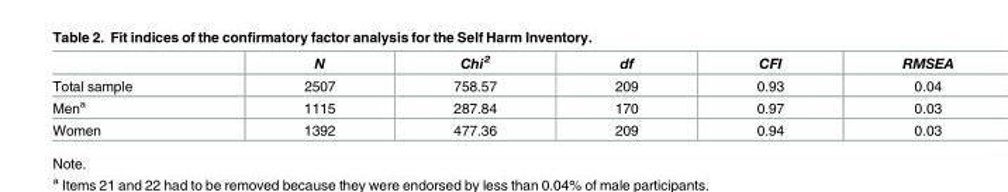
<table><thead><tr><td></td><td>N</td><td>Chi<sup>2</sup></td><td>df</td><td>CFI</td><td>RMSEA</td></tr></thead><tbody><tr><td>Total sample</td><td>2507</td><td>758.57</td><td>209</td><td>0.93</td><td>0.04</td></tr><tr><td>Men<sup>a</sup></td><td>1115</td><td>287.84</td><td>170</td><td>0.97</td><td>0.03</td></tr><tr><td>Women</td><td>1392</td><td>477.36</td><td>209</td><td>0.94</td><td>0.03</td></tr></tbody></table>